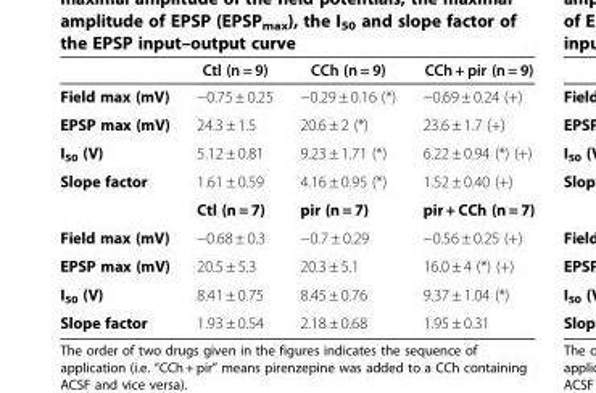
<table><thead><tr><td></td><td>Ctl (n = 9)</td><td>CCh (n = 9)</td><td>CCh + pir (n = 9)</td></tr></thead><tbody><tr><td>Field max (mV)</td><td>−0.75 ± 0.25</td><td>−0.29 ± 0.16 (*)</td><td>−0.69 ± 0.24 (+)</td></tr><tr><td>EPSP max (mV)</td><td>24.3 ± 1.5</td><td>20.6 ± 2 (*)</td><td>23.6 ± 1.7 (+)</td></tr><tr><td>I<sub>50</sub> (V)</td><td>5.12 ± 0.81</td><td>9.23 ± 1.71 (*)</td><td>6.22 ± 0.94 (*) (+)</td></tr><tr><td rowspan="2">Slope factor</td><td>1.61 ± 0.59</td><td>4.16 ± 0.95 (*)</td><td>1.52 ± 0.40 (+)</td></tr><tr><td>Ctl (n = 7)</td><td>pir (n = 7)</td><td>pir + CCh (n = 7)</td></tr><tr><td>Field max (mV)</td><td>−0.68 ± 0.3</td><td>−0.7 ± 0.29</td><td>−0.56 ± 0.25 (+)</td></tr><tr><td>EPSP max (mV)</td><td>20.5 ± 5.3</td><td>20.3 ± 5.1</td><td>16.0 ± 4 (*) (+)</td></tr><tr><td>I<sub>50</sub> (V)</td><td>8.41 ± 0.75</td><td>8.45 ± 0.76</td><td>9.37 ± 1.04 (*)</td></tr><tr><td>Slope factor</td><td>1.93 ± 0.54</td><td>2.18 ± 0.68</td><td>1.95 ± 0.31</td></tr></tbody></table>